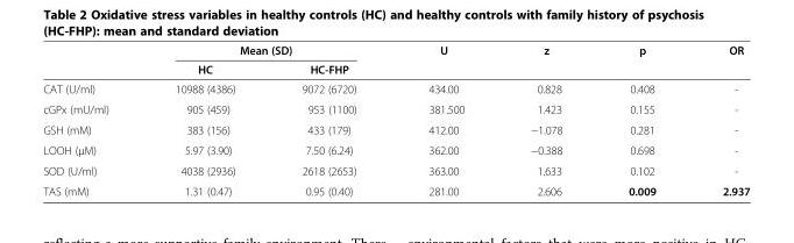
<table><thead><tr><td rowspan="2"></td><td colspan="2">Mean (SD)</td><td rowspan="2">U</td><td rowspan="2">z</td><td rowspan="2">p</td><td rowspan="2">OR</td></tr><tr><td>HC</td><td>HC-FHP</td></tr></thead><tbody><tr><td>CAT (U/ml)</td><td>10988 (4386)</td><td>9072 (6720)</td><td>434.00</td><td>0.828</td><td>0.408</td><td>-</td></tr><tr><td>cGPx (mU/ml)</td><td>905 (459)</td><td>953 (1100)</td><td>381.500</td><td>1.423</td><td>0.155</td><td>-</td></tr><tr><td>GSH (mM)</td><td>383 (156)</td><td>433 (179)</td><td>412.00</td><td>−1.078</td><td>0.281</td><td>-</td></tr><tr><td>LOOH (μM)</td><td>5.97 (3.90)</td><td>7.50 (6.24)</td><td>362.00</td><td>−0.388</td><td>0.698</td><td>-</td></tr><tr><td>SOD (U/ml)</td><td>4038 (2936)</td><td>2618 (2653)</td><td>363.00</td><td>1.633</td><td>0.102</td><td>-</td></tr><tr><td>TAS (mM)</td><td>1.31 (0.47)</td><td>0.95 (0.40)</td><td>281.00</td><td>2.606</td><td>0.009</td><td>2.937</td></tr></tbody></table>